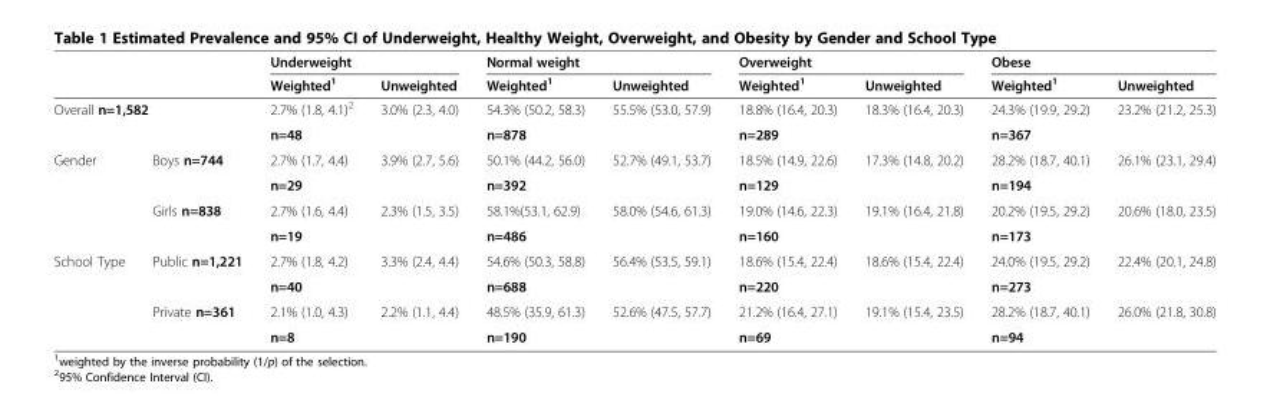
<table><thead><tr><td rowspan="2"></td><td rowspan="2"></td><td colspan="2">Underweight</td><td colspan="2">Normal weight</td><td colspan="2">Overweight</td><td colspan="2">Obese</td></tr><tr><td>Weighted<sup>1</sup></td><td>Unweighted</td><td>Weighted<sup>1</sup></td><td>Unweighted</td><td>Weighted<sup>1</sup></td><td>Unweighted</td><td>Weighted<sup>1</sup></td><td>Unweighted</td></tr></thead><tbody><tr><td rowspan="2" colspan="2">Overall n=1,582</td><td>2.7% (1.8, 4.1)<sup>2</sup></td><td>3.0% (2.3, 4.0)</td><td>54.3% (50.2, 58.3)</td><td>55.5% (53.0, 57.9)</td><td>18.8% (16.4, 20.3)</td><td>18.3% (16.4, 20.3)</td><td>24.3% (19.9, 29.2)</td><td>23.2% (21.2, 25.3)</td></tr><tr><td colspan="2">n=48</td><td colspan="2">n=878</td><td colspan="2">n=289</td><td colspan="2">n=367</td></tr><tr><td rowspan="4">Gender</td><td rowspan="2">Boys n=744</td><td>2.7% (1.7, 4.4)</td><td>3.9% (2.7, 5.6)</td><td>50.1% (44.2, 56.0)</td><td>52.7% (49.1, 53.7)</td><td>18.5% (14.9, 22.6)</td><td>17.3% (14.8, 20.2)</td><td>28.2% (18.7, 40.1)</td><td>26.1% (23.1, 29.4)</td></tr><tr><td colspan="2">n=29</td><td colspan="2">n=392</td><td colspan="2">n=129</td><td colspan="2">n=194</td></tr><tr><td rowspan="2">Girls n=838</td><td>2.7% (1.6, 4.4)</td><td>2.3% (1.5, 3.5)</td><td>58.1%(53.1, 62.9)</td><td>58.0% (54.6, 61.3)</td><td>19.0% (14.6, 22.3)</td><td>19.1% (16.4, 21.8)</td><td>20.2% (19.5, 29.2)</td><td>20.6% (18.0, 23.5)</td></tr><tr><td colspan="2">n=19</td><td colspan="2">n=486</td><td colspan="2">n=160</td><td colspan="2">n=173</td></tr><tr><td rowspan="4">School Type</td><td rowspan="2">Public n=1,221</td><td>2.7% (1.8, 4.2)</td><td>3.3% (2.4, 4.4)</td><td>54.6% (50.3, 58.8)</td><td>56.4% (53.5, 59.1)</td><td>18.6% (15.4, 22.4)</td><td>18.6% (15.4, 22.4)</td><td>24.0% (19.5, 29.2)</td><td>22.4% (20.1, 24.8)</td></tr><tr><td colspan="2">n=40</td><td colspan="2">n=688</td><td colspan="2">n=220</td><td colspan="2">n=273</td></tr><tr><td rowspan="2">Private n=361</td><td>2.1% (1.0, 4.3)</td><td>2.2% (1.1, 4.4)</td><td>48.5% (35.9, 61.3)</td><td>52.6% (47.5, 57.7)</td><td>21.2% (16.4, 27.1)</td><td>19.1% (15.4, 23.5)</td><td>28.2% (18.7, 40.1)</td><td>26.0% (21.8, 30.8)</td></tr><tr><td colspan="2">n=8</td><td colspan="2">n=190</td><td colspan="2">n=69</td><td colspan="2">n=94</td></tr></tbody></table>